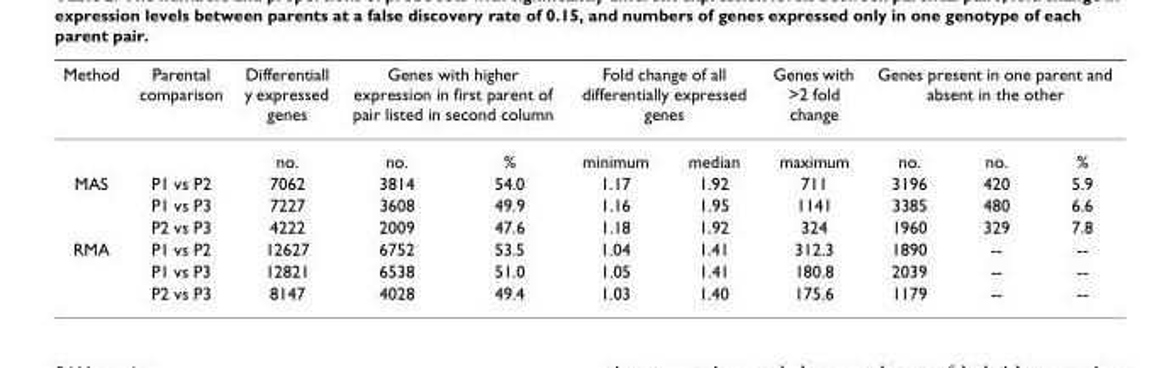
<table><thead><tr><td rowspan="2">Method</td><td rowspan="2">Parental comparison</td><td rowspan="2">Differentiall y expressed genes no.</td><td colspan="2">Genes with higher expression in first parent of pair listed in second column</td><td colspan="2">Fold change of all differentially expressed genes</td><td rowspan="2">Genes with &gt;2 fold change maximum</td><td colspan="3">Genes present in one parent and absent in the other</td></tr><tr><td>no.</td><td>%</td><td>minimum</td><td>median</td><td>no.</td><td>no.</td><td>%</td></tr></thead><tbody><tr><td rowspan="3">MAS</td><td>P1 vs P2</td><td>7062</td><td>3814</td><td>54.0</td><td>1.17</td><td>1.92</td><td>711</td><td>3196</td><td>420</td><td>5.9</td></tr><tr><td>P1 vs P3</td><td>7227</td><td>3608</td><td>49.9</td><td>1.16</td><td>1.95</td><td>1141</td><td>3385</td><td>480</td><td>6.6</td></tr><tr><td>P2 vs P3</td><td>4222</td><td>2009</td><td>47.6</td><td>1.18</td><td>1.92</td><td>324</td><td>1960</td><td>329</td><td>7.8</td></tr><tr><td rowspan="3">RMA</td><td>P1 vs P2</td><td>12627</td><td>6752</td><td>53.5</td><td>1.04</td><td>1.41</td><td>312.3</td><td>1890</td><td>--</td><td>--</td></tr><tr><td>P1 vs P3</td><td>12821</td><td>6538</td><td>51.0</td><td>1.05</td><td>1.41</td><td>180.8</td><td>2039</td><td>--</td><td>--</td></tr><tr><td>P2 vs P3</td><td>8147</td><td>4028</td><td>49.4</td><td>1.03</td><td>1.40</td><td>175.6</td><td>1179</td><td>--</td><td>--</td></tr></tbody></table>